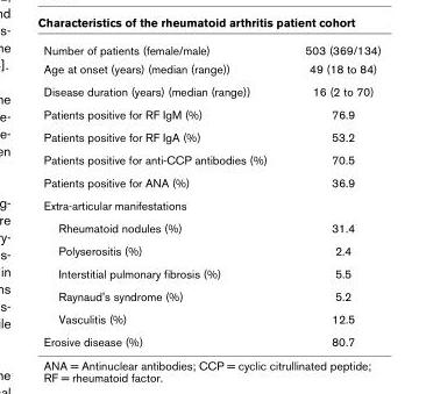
<table><tbody><tr><td>Number of patients (female/male)</td><td>503 (369/134)</td></tr><tr><td>Age at onset (years) (median (range))</td><td>49 (18 to 84)</td></tr><tr><td>Disease duration (years) (median (range))</td><td>16 (2 to 70)</td></tr><tr><td>Patients positive for RF IgM (%)</td><td>76.9</td></tr><tr><td>Patients positive for RF IgA (%)</td><td>53.2</td></tr><tr><td>Patients positive for anti-CCP antibodies (%)</td><td>70.5</td></tr><tr><td>Patients positive for ANA (%)</td><td>36.9</td></tr><tr><td colspan="2">Extra-articular manifestations</td></tr><tr><td>Rheumatoid nodules (%)</td><td>31.4</td></tr><tr><td>Polyserositis (%)</td><td>2.4</td></tr><tr><td>Interstitial pulmonary fibrosis (%)</td><td>5.5</td></tr><tr><td>Raynaud&#x27;s syndrome (%)</td><td>5.2</td></tr><tr><td>Vasculitis (%)</td><td>12.5</td></tr><tr><td>Erosive disease (%)</td><td>80.7</td></tr></tbody></table>